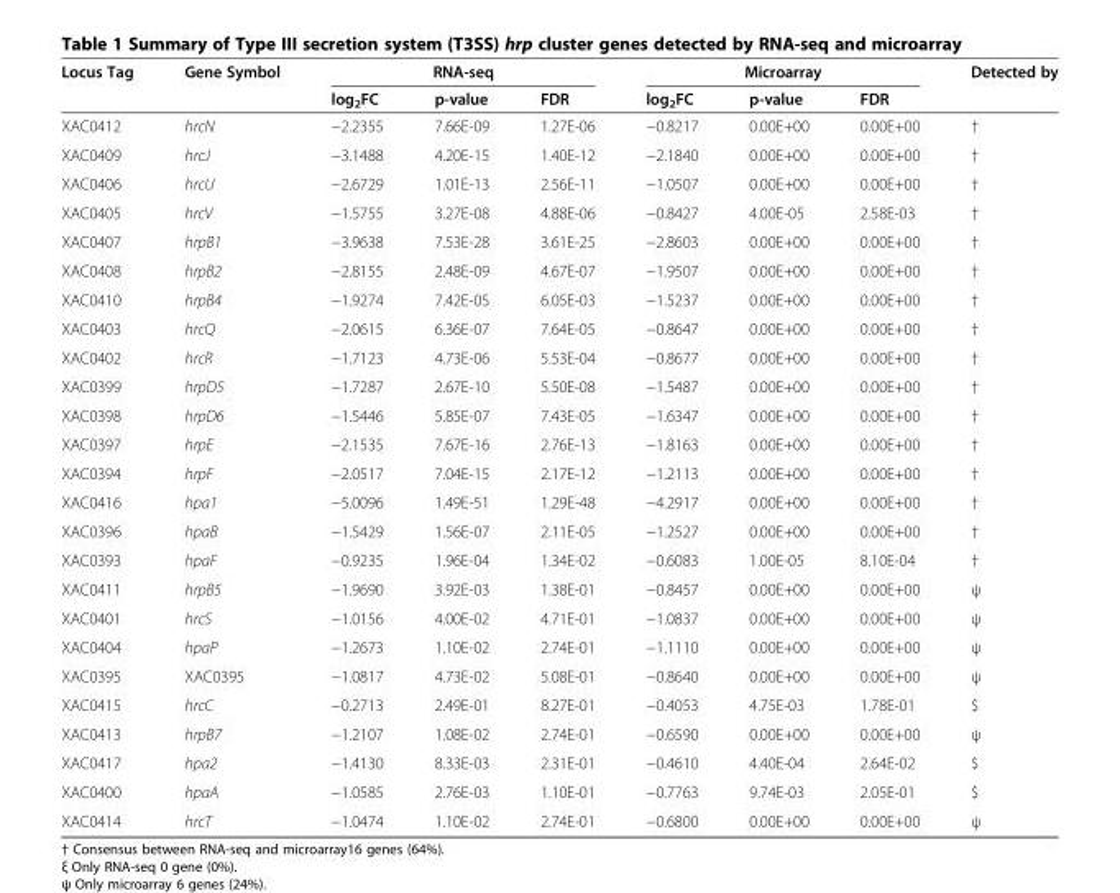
<table><thead><tr><td rowspan="2">Locus Tag</td><td rowspan="2">Gene Symbol</td><td colspan="3">RNA-seq</td><td colspan="3">Microarray</td><td rowspan="2">Detected by</td></tr><tr><td>log<sub>2</sub>FC</td><td>p-value</td><td>FDR</td><td>log<sub>2</sub>FC</td><td>p-value</td><td>FDR</td></tr></thead><tbody><tr><td>XAC0412</td><td>hrcN</td><td>−2.2355</td><td>7.66E-09</td><td>1.27E-06</td><td>−0.8217</td><td>0.00E+00</td><td>0.00E+00</td><td>†</td></tr><tr><td>XAC0409</td><td>hrcJ</td><td>−3.1488</td><td>4.20E-15</td><td>1.40E-12</td><td>−2.1840</td><td>0.00E+00</td><td>0.00E+00</td><td>†</td></tr><tr><td>XAC0406</td><td>hrcU</td><td>−2.6729</td><td>1.01E-13</td><td>2.56E-11</td><td>−1.0507</td><td>0.00E+00</td><td>0.00E+00</td><td>†</td></tr><tr><td>XAC0405</td><td>hrcV</td><td>−1.5755</td><td>3.27E-08</td><td>4.88E-06</td><td>−0.8427</td><td>4.00E-05</td><td>2.58E-03</td><td>†</td></tr><tr><td>XAC0407</td><td>hrpB1</td><td>−3.9638</td><td>7.53E-28</td><td>3.61E-25</td><td>−2.8603</td><td>0.00E+00</td><td>0.00E+00</td><td>†</td></tr><tr><td>XAC0408</td><td>hrpB2</td><td>−2.8155</td><td>2.48E-09</td><td>4.67E-07</td><td>−1.9507</td><td>0.00E+00</td><td>0.00E+00</td><td>†</td></tr><tr><td>XAC0410</td><td>hrpB4</td><td>−1.9274</td><td>7.42E-05</td><td>6.05E-03</td><td>−1.5237</td><td>0.00E+00</td><td>0.00E+00</td><td>†</td></tr><tr><td>XAC0403</td><td>hrcQ</td><td>−2.0615</td><td>6.36E-07</td><td>7.64E-05</td><td>−0.8647</td><td>0.00E+00</td><td>0.00E+00</td><td>†</td></tr><tr><td>XAC0402</td><td>hrcR</td><td>−1.7123</td><td>4.73E-06</td><td>5.53E-04</td><td>−0.8677</td><td>0.00E+00</td><td>0.00E+00</td><td>†</td></tr><tr><td>XAC0399</td><td>hrpD5</td><td>−1.7287</td><td>2.67E-10</td><td>5.50E-08</td><td>−1.5487</td><td>0.00E+00</td><td>0.00E+00</td><td>†</td></tr><tr><td>XAC0398</td><td>hrpD6</td><td>−1.5446</td><td>5.85E-07</td><td>7.43E-05</td><td>−1.6347</td><td>0.00E+00</td><td>0.00E+00</td><td>†</td></tr><tr><td>XAC0397</td><td>hrpE</td><td>−2.1535</td><td>7.67E-16</td><td>2.76E-13</td><td>−1.8163</td><td>0.00E+00</td><td>0.00E+00</td><td>†</td></tr><tr><td>XAC0394</td><td>hrpF</td><td>−2.0517</td><td>7.04E-15</td><td>2.17E-12</td><td>−1.2113</td><td>0.00E+00</td><td>0.00E+00</td><td>†</td></tr><tr><td>XAC0416</td><td>hpa1</td><td>−5.0096</td><td>1.49E-51</td><td>1.29E-48</td><td>−4.2917</td><td>0.00E+00</td><td>0.00E+00</td><td>†</td></tr><tr><td>XAC0396</td><td>hpaB</td><td>−1.5429</td><td>1.56E-07</td><td>2.11E-05</td><td>−1.2527</td><td>0.00E+00</td><td>0.00E+00</td><td>†</td></tr><tr><td>XAC0393</td><td>hpaF</td><td>−0.9235</td><td>1.96E-04</td><td>1.34E-02</td><td>−0.6083</td><td>1.00E-05</td><td>8.10E-04</td><td>†</td></tr><tr><td>XAC0411</td><td>hrpB5</td><td>−1.9690</td><td>3.92E-03</td><td>1.38E-01</td><td>−0.8457</td><td>0.00E+00</td><td>0.00E+00</td><td>ψ</td></tr><tr><td>XAC0401</td><td>hrcS</td><td>−1.0156</td><td>4.00E-02</td><td>4.71E-01</td><td>−1.0837</td><td>0.00E+00</td><td>0.00E+00</td><td>ψ</td></tr><tr><td>XAC0404</td><td>hpaP</td><td>−1.2673</td><td>1.10E-02</td><td>2.74E-01</td><td>−1.1110</td><td>0.00E+00</td><td>0.00E+00</td><td>ψ</td></tr><tr><td>XAC0395</td><td>XAC0395</td><td>−1.0817</td><td>4.73E-02</td><td>5.08E-01</td><td>−0.8640</td><td>0.00E+00</td><td>0.00E+00</td><td>ψ</td></tr><tr><td>XAC0415</td><td>hrcC</td><td>−0.2713</td><td>2.49E-01</td><td>8.27E-01</td><td>−0.4053</td><td>4.75E-03</td><td>1.78E-01</td><td>$</td></tr><tr><td>XAC0413</td><td>hrpB7</td><td>−1.2107</td><td>1.08E-02</td><td>2.74E-01</td><td>−0.6590</td><td>0.00E+00</td><td>0.00E+00</td><td>ψ</td></tr><tr><td>XAC0417</td><td>hpa2</td><td>−1.4130</td><td>8.33E-03</td><td>2.31E-01</td><td>−0.4610</td><td>4.40E-04</td><td>2.64E-02</td><td>$</td></tr><tr><td>XAC0400</td><td>hpaA</td><td>−1.0585</td><td>2.76E-03</td><td>1.10E-01</td><td>−0.7763</td><td>9.74E-03</td><td>2.05E-01</td><td>$</td></tr><tr><td>XAC0414</td><td>hrcT</td><td>−1.0474</td><td>1.10E-02</td><td>2.74E-01</td><td>−0.6800</td><td>0.00E+00</td><td>0.00E+00</td><td>ψ</td></tr></tbody></table>